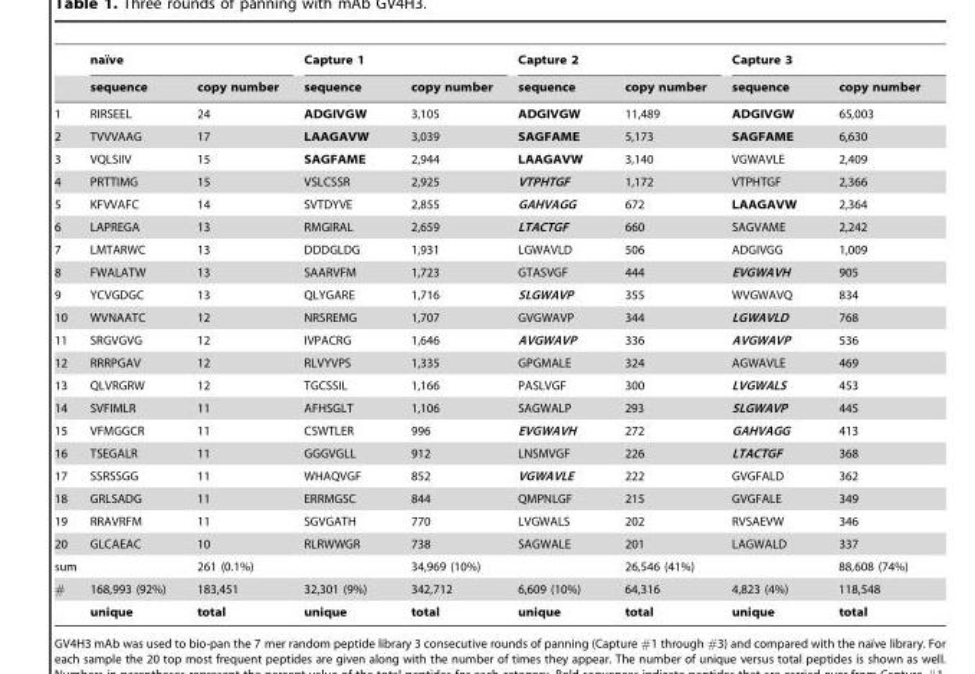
<table><thead><tr><td rowspan="2"></td><td colspan="2">naı¨ve</td><td colspan="2">Capture 1</td><td colspan="2">Capture 2</td><td colspan="2">Capture 3</td></tr><tr><td>sequence</td><td>copy number</td><td>sequence</td><td>copy number</td><td>sequence</td><td>copy number</td><td>sequence</td><td>copy number</td></tr></thead><tbody><tr><td>1</td><td>RIRSEEL</td><td>24</td><td>ADGIVGW</td><td>3,105</td><td>ADGIVGW</td><td>11,489</td><td>ADGIVGW</td><td>65,003</td></tr><tr><td>2</td><td>TVVVAAG</td><td>17</td><td>LAAGAVW</td><td>3,039</td><td>SAGFAME</td><td>5,173</td><td>SAGFAME</td><td>6,630</td></tr><tr><td>3</td><td>VQLSIIV</td><td>15</td><td>SAGFAME</td><td>2,944</td><td>LAAGAVW</td><td>3,140</td><td>VGWAVLE</td><td>2,409</td></tr><tr><td>4</td><td>PRTTIMG</td><td>15</td><td>VSLCSSR</td><td>2,925</td><td>VTPHTGF</td><td>1,172</td><td>VTPHTGF</td><td>2,366</td></tr><tr><td>5</td><td>KFVVAFC</td><td>14</td><td>SVTDYVE</td><td>2,855</td><td>GAHVAGG</td><td>672</td><td>LAAGAVW</td><td>2,364</td></tr><tr><td>6</td><td>LAPREGA</td><td>13</td><td>RMGIRAL</td><td>2,659</td><td>LTACTGF</td><td>660</td><td>SAGVAME</td><td>2,242</td></tr><tr><td>7</td><td>LMTARWC</td><td>13</td><td>DDDGLDG</td><td>1,931</td><td>LGWAVLD</td><td>506</td><td>ADGIVGG</td><td>1,009</td></tr><tr><td>8</td><td>FWALATW</td><td>13</td><td>SAARVFM</td><td>1,723</td><td>GTASVGF</td><td>444</td><td>EVGWAVH</td><td>905</td></tr><tr><td>9</td><td>YCVGDGC</td><td>13</td><td>QLYGARE</td><td>1,716</td><td>SLGWAVP</td><td>355</td><td>WVGWAVQ</td><td>834</td></tr><tr><td>10</td><td>WVNAATC</td><td>12</td><td>NRSREMG</td><td>1,707</td><td>GVGWAVP</td><td>344</td><td>LGWAVLD</td><td>768</td></tr><tr><td>11</td><td>SRGVGVG</td><td>12</td><td>IVPACRG</td><td>1,646</td><td>AVGWAVP</td><td>336</td><td>AVGWAVP</td><td>536</td></tr><tr><td>12</td><td>RRRPGAV</td><td>12</td><td>RLVYVPS</td><td>1,335</td><td>GPGMALE</td><td>324</td><td>AGWAVLE</td><td>469</td></tr><tr><td>13</td><td>QLVRGRW</td><td>12</td><td>TGCSSIL</td><td>1,166</td><td>PASLVGF</td><td>300</td><td>LVGWALS</td><td>453</td></tr><tr><td>14</td><td>SVFIMLR</td><td>11</td><td>AFHSGLT</td><td>1,106</td><td>SAGWALP</td><td>293</td><td>SLGWAVP</td><td>445</td></tr><tr><td>15</td><td>VFMGGCR</td><td>11</td><td>CSWTLER</td><td>996</td><td>EVGWAVH</td><td>272</td><td>GAHVAGG</td><td>413</td></tr><tr><td>16</td><td>TSEGALR</td><td>11</td><td>GGGVGLL</td><td>912</td><td>LNSMVGF</td><td>226</td><td>LTACTGF</td><td>368</td></tr><tr><td>17</td><td>SSRSSGG</td><td>11</td><td>WHAQVGF</td><td>852</td><td>VGWAVLE</td><td>222</td><td>GVGFALD</td><td>362</td></tr><tr><td>18</td><td>GRLSADG</td><td>11</td><td>ERRMGSC</td><td>844</td><td>QMPNLGF</td><td>215</td><td>GVGFALE</td><td>349</td></tr><tr><td>19</td><td>RRAVRFM</td><td>11</td><td>SGVGATH</td><td>770</td><td>LVGWALS</td><td>202</td><td>RVSAEVW</td><td>346</td></tr><tr><td>20</td><td>GLCAEAC</td><td>10</td><td>RLRWWGR</td><td>738</td><td>SAGWALE</td><td>201</td><td>LAGWALD</td><td>337</td></tr><tr><td>sum</td><td></td><td>261 (0.1%)</td><td></td><td>34,969 (10%)</td><td></td><td>26,546 (41%)</td><td></td><td>88,608 (74%)</td></tr><tr><td rowspan="2">#</td><td>168,993 (92%)</td><td>183,451</td><td>32,301 (9%)</td><td>342,712</td><td>6,609 (10%)</td><td>64,316</td><td>4,823 (4%)</td><td>118,548</td></tr><tr><td>unique</td><td>total</td><td>unique</td><td>total</td><td>unique</td><td>total</td><td>unique</td><td>total</td></tr></tbody></table>